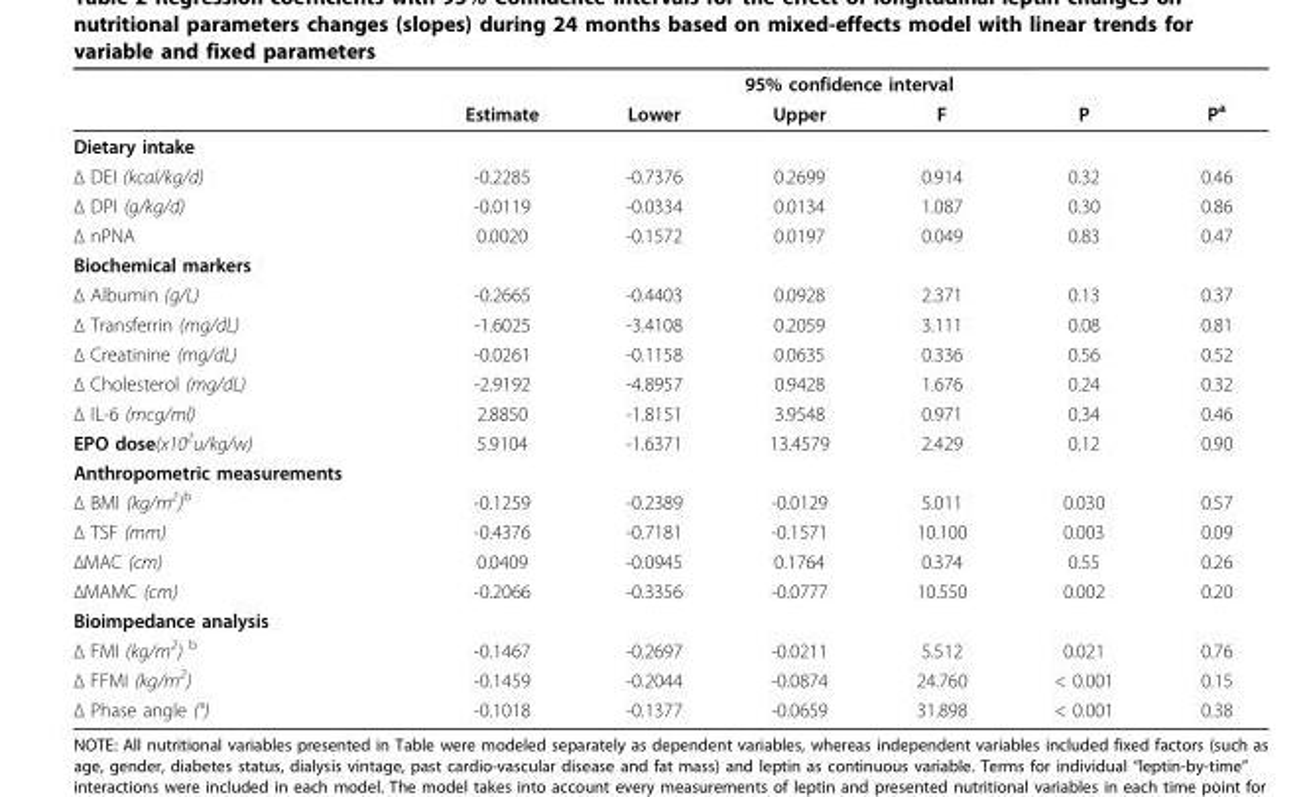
<table><thead><tr><td rowspan="2"></td><td colspan="6">95% confidence interval</td></tr><tr><td>Estimate</td><td>Lower</td><td>Upper</td><td>F</td><td>P</td><td>P<sup>a</sup></td></tr></thead><tbody><tr><td colspan="7">Dietary intake</td></tr><tr><td>Δ DEI (kcal/kg/d)</td><td>-0.2285</td><td>-0.7376</td><td>0.2699</td><td>0.914</td><td>0.32</td><td>0.46</td></tr><tr><td>Δ DPI (g/kg/d)</td><td>-0.0119</td><td>-0.0334</td><td>0.0134</td><td>1.087</td><td>0.30</td><td>0.86</td></tr><tr><td>Δ nPNA</td><td>0.0020</td><td>-0.1572</td><td>0.0197</td><td>0.049</td><td>0.83</td><td>0.47</td></tr><tr><td colspan="7">Biochemical markers</td></tr><tr><td>Δ Albumin (g/L)</td><td>-0.2665</td><td>-0.4403</td><td>0.0928</td><td>2.371</td><td>0.13</td><td>0.37</td></tr><tr><td>Δ Transferrin (mg/dL)</td><td>-1.6025</td><td>-3.4108</td><td>0.2059</td><td>3.111</td><td>0.08</td><td>0.81</td></tr><tr><td>Δ Creatinine (mg/dL)</td><td>-0.0261</td><td>-0.1158</td><td>0.0635</td><td>0.336</td><td>0.56</td><td>0.52</td></tr><tr><td>Δ Cholesterol (mg/dL)</td><td>-2.9192</td><td>-4.8957</td><td>0.9428</td><td>1.676</td><td>0.24</td><td>0.32</td></tr><tr><td>Δ IL-6 (mcg/ml)</td><td>2.8850</td><td>-1.8151</td><td>3.9548</td><td>0.971</td><td>0.34</td><td>0.46</td></tr><tr><td>EPO dose(x10<sup>2</sup>u/kg/w)</td><td>5.9104</td><td>-1.6371</td><td>13.4579</td><td>2.429</td><td>0.12</td><td>0.90</td></tr><tr><td colspan="7">Anthropometric measurements</td></tr><tr><td>Δ BMI (kg/m<sup>2</sup>)<sup>b</sup></td><td>-0.1259</td><td>-0.2389</td><td>-0.0129</td><td>5.011</td><td>0.030</td><td>0.57</td></tr><tr><td>Δ TSF (mm)</td><td>-0.4376</td><td>-0.7181</td><td>-0.1571</td><td>10.100</td><td>0.003</td><td>0.09</td></tr><tr><td>ΔMAC (cm)</td><td>0.0409</td><td>-0.0945</td><td>0.1764</td><td>0.374</td><td>0.55</td><td>0.26</td></tr><tr><td>ΔMAMC (cm)</td><td>-0.2066</td><td>-0.3356</td><td>-0.0777</td><td>10.550</td><td>0.002</td><td>0.20</td></tr><tr><td colspan="7">Bioimpedance analysis</td></tr><tr><td>Δ FMI (kg/m<sup>2</sup>) <sup>b</sup></td><td>-0.1467</td><td>-0.2697</td><td>-0.0211</td><td>5.512</td><td>0.021</td><td>0.76</td></tr><tr><td>Δ FFMI (kg/m<sup>2</sup>)</td><td>-0.1459</td><td>-0.2044</td><td>-0.0874</td><td>24.760</td><td>&lt; 0.001</td><td>0.15</td></tr><tr><td>Δ Phase angle (°)</td><td>-0.1018</td><td>-0.1377</td><td>-0.0659</td><td>31.898</td><td>&lt; 0.001</td><td>0.38</td></tr></tbody></table>